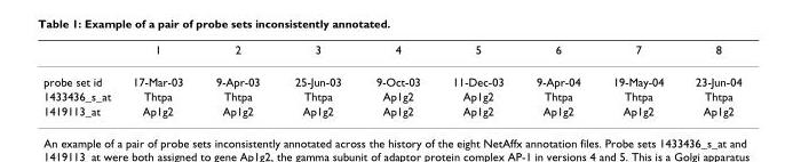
<table><thead><tr><td></td><td>1</td><td>2</td><td>3</td><td>4</td><td>5</td><td>6</td><td>7</td><td>8</td></tr></thead><tbody><tr><td>probe set id</td><td>17-Mar-03</td><td>9-Apr-03</td><td>25-Jun-03</td><td>9-Oct-03</td><td>11-Dec-03</td><td>9-Apr-04</td><td>19-May-04</td><td>23-Jun-04</td></tr><tr><td>1433436_s_at</td><td>Thtpa</td><td>Thtpa</td><td>Thtpa</td><td>Ap1g2</td><td>Ap1g2</td><td>Thtpa</td><td>Thtpa</td><td>Thtpa</td></tr><tr><td>1419113_at</td><td>Ap1g2</td><td>Ap1g2</td><td>Ap1g2</td><td>Ap1g2</td><td>Ap1g2</td><td>Ap1g2</td><td>Ap1g2</td><td>Ap1g2</td></tr></tbody></table>